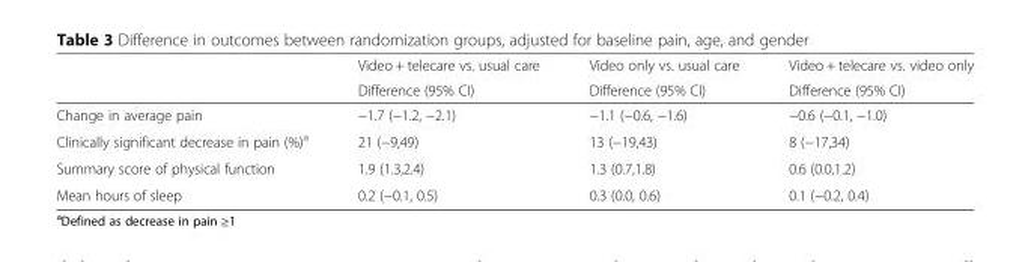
<table><thead><tr><td rowspan="2"></td><td rowspan="2">Video + telecare vs. usual care Difference (95% CI)</td><td rowspan="2">Video only vs. usual care Difference (95% CI)</td><td rowspan="2">Video + telecare vs. video only Difference (95% CI)</td></tr><tr></tr></thead><tbody><tr><td>Change in average pain</td><td>−1.7 (−1.2, −2.1)</td><td>−1.1 (−0.6, −1.6)</td><td>−0.6 (−0.1, −1.0)</td></tr><tr><td>Clinically significant decrease in pain (%)<sup>a</sup></td><td>21 (−9,49)</td><td>13 (−19,43)</td><td>8 (−17,34)</td></tr><tr><td>Summary score of physical function</td><td>1.9 (1.3,2.4)</td><td>1.3 (0.7,1.8)</td><td>0.6 (0.0,1.2)</td></tr><tr><td>Mean hours of sleep</td><td>0.2 (−0.1, 0.5)</td><td>0.3 (0.0, 0.6)</td><td>0.1 (−0.2, 0.4)</td></tr></tbody></table>